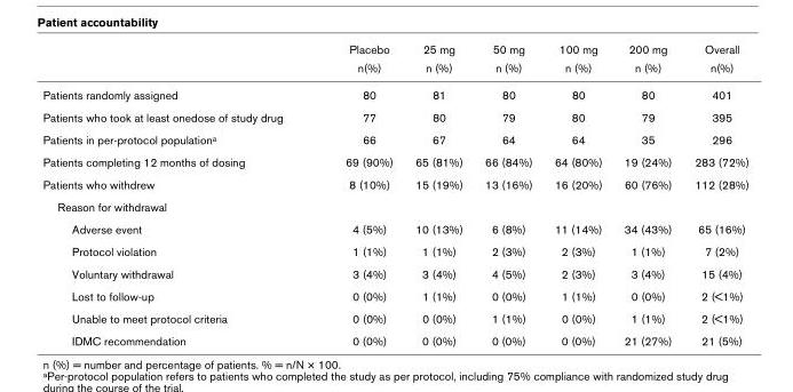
<table><thead><tr><td rowspan="2"></td><td rowspan="2">Placebo n(%)</td><td rowspan="2">25 mg n (%)</td><td rowspan="2">50 mg n (%)</td><td rowspan="2">100 mg n (%)</td><td rowspan="2">200 mg n (%)</td><td rowspan="2">Overall n(%)</td></tr><tr></tr></thead><tbody><tr><td>Patients randomly assigned</td><td>80</td><td>81</td><td>80</td><td>80</td><td>80</td><td>401</td></tr><tr><td>Patients who took at least onedose of study drug</td><td>77</td><td>80</td><td>79</td><td>80</td><td>79</td><td>395</td></tr><tr><td>Patients in per-protocol population<sup>a</sup></td><td>66</td><td>67</td><td>64</td><td>64</td><td>35</td><td>296</td></tr><tr><td>Patients completing 12 months of dosing</td><td>69 (90%)</td><td>65 (81%)</td><td>66 (84%)</td><td>64 (80%)</td><td>19 (24%)</td><td>283 (72%)</td></tr><tr><td>Patients who withdrew</td><td>8 (10%)</td><td>15 (19%)</td><td>13 (16%)</td><td>16 (20%)</td><td>60 (76%)</td><td>112 (28%)</td></tr><tr><td colspan="7">Reason for withdrawal</td></tr><tr><td>Adverse event</td><td>4 (5%)</td><td>10 (13%)</td><td>6 (8%)</td><td>11 (14%)</td><td>34 (43%)</td><td>65 (16%)</td></tr><tr><td>Protocol violation</td><td>1 (1%)</td><td>1 (1%)</td><td>2 (3%)</td><td>2 (3%)</td><td>1 (1%)</td><td>7 (2%)</td></tr><tr><td>Voluntary withdrawal</td><td>3 (4%)</td><td>3 (4%)</td><td>4 (5%)</td><td>2 (3%)</td><td>3 (4%)</td><td>15 (4%)</td></tr><tr><td>Lost to follow-up</td><td>0 (0%)</td><td>1 (1%)</td><td>0 (0%)</td><td>1 (1%)</td><td>0 (0%)</td><td>2 (&lt;1%)</td></tr><tr><td>Unable to meet protocol criteria</td><td>0 (0%)</td><td>0 (0%)</td><td>1 (1%)</td><td>0 (0%)</td><td>1 (1%)</td><td>2 (&lt;1%)</td></tr><tr><td>IDMC recommendation</td><td>0 (0%)</td><td>0 (0%)</td><td>0 (0%)</td><td>0 (0%)</td><td>21 (27%)</td><td>21 (5%)</td></tr></tbody></table>